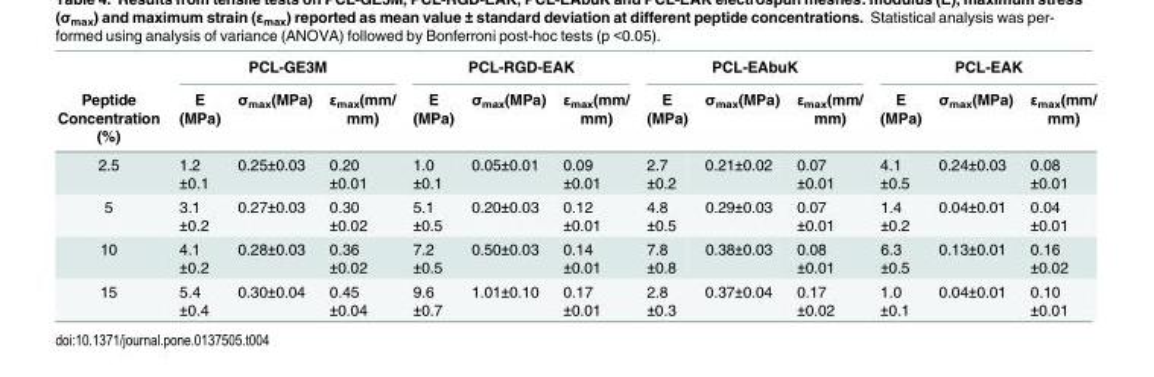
<table><thead><tr><td rowspan="2">Peptide Concentration (%)</td><td colspan="3">PCL-GE3M</td><td colspan="3">PCL-RGD-EAK</td><td colspan="3">PCL-EAbuK</td><td colspan="3">PCL-EAK</td></tr><tr><td>E (MPa)</td><td>σ<sub>max</sub>(MPa)</td><td>ε<sub>max</sub>(mm/ mm)</td><td>E (MPa)</td><td>σ<sub>max</sub>(MPa)</td><td>ε<sub>max</sub>(mm/ mm)</td><td>E (MPa)</td><td>σ<sub>max</sub>(MPa)</td><td>ε<sub>max</sub>(mm/ mm)</td><td>E (MPa)</td><td>σ<sub>max</sub>(MPa)</td><td>ε<sub>max</sub>(mm/ mm)</td></tr></thead><tbody><tr><td>2.5</td><td>1.2 ±0.1</td><td>0.25±0.03</td><td>0.20 ±0.01</td><td>1.0 ±0.1</td><td>0.05±0.01</td><td>0.09 ±0.01</td><td>2.7 ±0.2</td><td>0.21±0.02</td><td>0.07 ±0.01</td><td>4.1 ±0.5</td><td>0.24±0.03</td><td>0.08 ±0.01</td></tr><tr><td>5</td><td>3.1 ±0.2</td><td>0.27±0.03</td><td>0.30 ±0.02</td><td>5.1 ±0.5</td><td>0.20±0.03</td><td>0.12 ±0.01</td><td>4.8 ±0.5</td><td>0.29±0.03</td><td>0.07 ±0.01</td><td>1.4 ±0.2</td><td>0.04±0.01</td><td>0.04 ±0.01</td></tr><tr><td>10</td><td>4.1 ±0.2</td><td>0.28±0.03</td><td>0.36 ±0.02</td><td>7.2 ±0.5</td><td>0.50±0.03</td><td>0.14 ±0.01</td><td>7.8 ±0.8</td><td>0.38±0.03</td><td>0.08 ±0.01</td><td>6.3 ±0.5</td><td>0.13±0.01</td><td>0.16 ±0.02</td></tr><tr><td>15</td><td>5.4 ±0.4</td><td>0.30±0.04</td><td>0.45 ±0.04</td><td>9.6 ±0.7</td><td>1.01±0.10</td><td>0.17 ±0.01</td><td>2.8 ±0.3</td><td>0.37±0.04</td><td>0.17 ±0.02</td><td>1.0 ±0.1</td><td>0.04±0.01</td><td>0.10 ±0.01</td></tr></tbody></table>